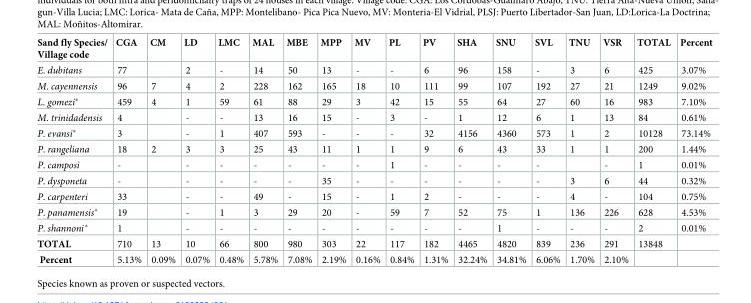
<table><thead><tr><td>Sand fly Species/ Village code</td><td>CGA</td><td>CM</td><td>LD</td><td>LMC</td><td>MAL</td><td>MBE</td><td>MPP</td><td>MV</td><td>PL</td><td>PV</td><td>SHA</td><td>SNU</td><td>SVL</td><td>TNU</td><td>VSR</td><td>TOTAL</td><td>Percent</td></tr></thead><tbody><tr><td>E. dubitans</td><td>77</td><td></td><td>2</td><td>-</td><td>14</td><td>50</td><td>13</td><td>-</td><td>-</td><td>6</td><td>96</td><td>158</td><td>-</td><td>3</td><td>6</td><td>425</td><td>3.07%</td></tr><tr><td>M. cayennensis</td><td>96</td><td>7</td><td>4</td><td>2</td><td>228</td><td>162</td><td>165</td><td>18</td><td>10</td><td>111</td><td>99</td><td>107</td><td>192</td><td>27</td><td>21</td><td>1249</td><td>9.02%</td></tr><tr><td>L. gomezi*</td><td>459</td><td>4</td><td>1</td><td>59</td><td>61</td><td>88</td><td>29</td><td>3</td><td>42</td><td>15</td><td>55</td><td>64</td><td>27</td><td>60</td><td>16</td><td>983</td><td>7.10%</td></tr><tr><td>M. trinidadensis</td><td>4</td><td></td><td>-</td><td>-</td><td>13</td><td>16</td><td>15</td><td>-</td><td>3</td><td>-</td><td>1</td><td>12</td><td>6</td><td>1</td><td>13</td><td>84</td><td>0.61%</td></tr><tr><td>P. evansi*</td><td>3</td><td></td><td>-</td><td>1</td><td>407</td><td>593</td><td>-</td><td>-</td><td>-</td><td>32</td><td>4156</td><td>4360</td><td>573</td><td>1</td><td>2</td><td>10128</td><td>73.14%</td></tr><tr><td>P. rangeliana</td><td>18</td><td>2</td><td>3</td><td>3</td><td>25</td><td>43</td><td>11</td><td>1</td><td>1</td><td>9</td><td>6</td><td>43</td><td>33</td><td>1</td><td>1</td><td>200</td><td>1.44%</td></tr><tr><td>P. camposi</td><td>-</td><td></td><td>-</td><td>-</td><td>-</td><td>-</td><td>-</td><td>-</td><td>1</td><td>-</td><td>-</td><td>-</td><td>-</td><td></td><td>-</td><td>1</td><td>0.01%</td></tr><tr><td>P. dysponeta</td><td>-</td><td></td><td>-</td><td>-</td><td>-</td><td>-</td><td>35</td><td>-</td><td>-</td><td>-</td><td>-</td><td>-</td><td>-</td><td>3</td><td>6</td><td>44</td><td>0.32%</td></tr><tr><td>P. carpenteri</td><td>33</td><td></td><td>-</td><td>-</td><td>49</td><td>-</td><td>15</td><td>-</td><td>1</td><td>2</td><td>-</td><td>-</td><td>-</td><td>4</td><td>-</td><td>104</td><td>0.75%</td></tr><tr><td>P. panamensis*</td><td>19</td><td></td><td>-</td><td>1</td><td>3</td><td>29</td><td>20</td><td>-</td><td>59</td><td>7</td><td>52</td><td>75</td><td>1</td><td>136</td><td>226</td><td>628</td><td>4.53%</td></tr><tr><td>P. shannoni*</td><td>1</td><td></td><td>-</td><td>-</td><td>-</td><td>-</td><td>-</td><td>-</td><td>-</td><td>-</td><td>-</td><td>1</td><td>-</td><td>-</td><td>-</td><td>2</td><td>0.01%</td></tr><tr><td>TOTAL</td><td>710</td><td>13</td><td>10</td><td>66</td><td>800</td><td>980</td><td>303</td><td>22</td><td>117</td><td>182</td><td>4465</td><td>4820</td><td>839</td><td>236</td><td>291</td><td>13848</td><td></td></tr><tr><td>Percent</td><td>5.13%</td><td>0.09%</td><td>0.07%</td><td>0.48%</td><td>5.78%</td><td>7.08%</td><td>2.19%</td><td>0.16%</td><td>0.84%</td><td>1.31%</td><td>32.24%</td><td>34.81%</td><td>6.06%</td><td>1.70%</td><td>2.10%</td><td></td><td></td></tr></tbody></table>